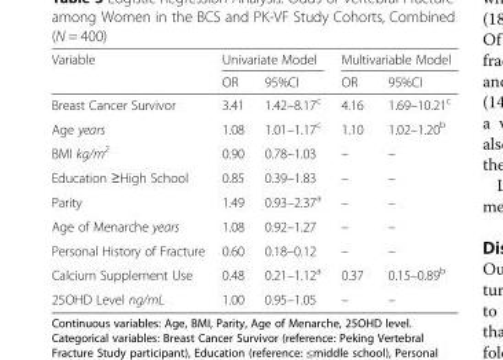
<table><thead><tr><td rowspan="2">Variable</td><td colspan="2">Univariate Model</td><td colspan="2">Multivariable Model</td></tr><tr><td>OR</td><td>95%CI</td><td>OR</td><td>95%CI</td></tr></thead><tbody><tr><td>Breast Cancer Survivor</td><td>3.41</td><td>1.42–8.17<sup>c</sup></td><td>4.16</td><td>1.69–10.21<sup>c</sup></td></tr><tr><td>Age years</td><td>1.08</td><td>1.01–1.17<sup>c</sup></td><td>1.10</td><td>1.02–1.20<sup>b</sup></td></tr><tr><td>BMI kg/m<sup>2</sup></td><td>0.90</td><td>0.78–1.03</td><td>–</td><td>–</td></tr><tr><td>Education ≥High School</td><td>0.85</td><td>0.39–1.83</td><td>–</td><td>–</td></tr><tr><td>Parity</td><td>1.49</td><td>0.93–2.37<sup>a</sup></td><td>–</td><td>–</td></tr><tr><td>Age of Menarche years</td><td>1.08</td><td>0.92–1.27</td><td>–</td><td>–</td></tr><tr><td>Personal History of Fracture</td><td>0.60</td><td>0.18–0.12</td><td>–</td><td>–</td></tr><tr><td>Calcium Supplement Use</td><td>0.48</td><td>0.21–1.12<sup>a</sup></td><td>0.37</td><td>0.15–0.89<sup>b</sup></td></tr><tr><td>25OHD Level ng/mL</td><td>1.00</td><td>0.95–1.05</td><td>–</td><td>–</td></tr></tbody></table>